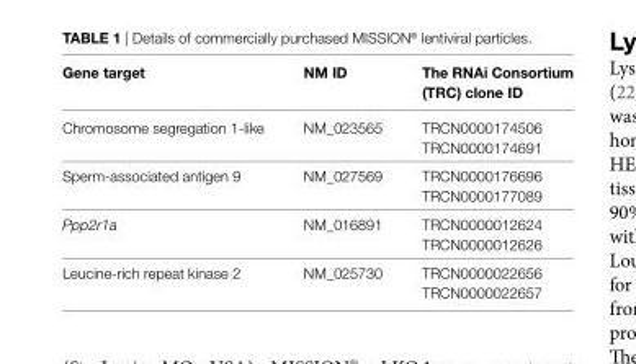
<table><thead><tr><td>gene target</td><td>nM iD</td><td>The rnai consortium (Trc) clone iD</td></tr></thead><tbody><tr><td>Chromosome segregation 1-like</td><td>NM_023565</td><td>TRCN0000174506 TRCN0000174691</td></tr><tr><td>Sperm-associated antigen 9</td><td>NM_027569</td><td>TRCN0000176696 TRCN0000177089</td></tr><tr><td>Ppp2r1a</td><td>NM_016891</td><td>TRCN0000012624 TRCN0000012626</td></tr><tr><td>Leucine-rich repeat kinase 2</td><td>NM_025730</td><td>TRCN0000022656 TRCN0000022657</td></tr></tbody></table>